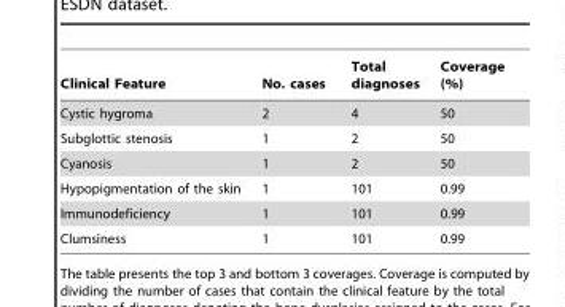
<table><thead><tr><td>Clinical Feature</td><td>No. cases</td><td>Total diagnoses</td><td>Coverage (%)</td></tr></thead><tbody><tr><td>Cystic hygroma</td><td>2</td><td>4</td><td>50</td></tr><tr><td>Subglottic stenosis</td><td>1</td><td>2</td><td>50</td></tr><tr><td>Cyanosis</td><td>1</td><td>2</td><td>50</td></tr><tr><td>Hypopigmentation of the skin</td><td>1</td><td>101</td><td>0.99</td></tr><tr><td>Immunodeficiency</td><td>1</td><td>101</td><td>0.99</td></tr><tr><td>Clumsiness</td><td>1</td><td>101</td><td>0.99</td></tr></tbody></table>